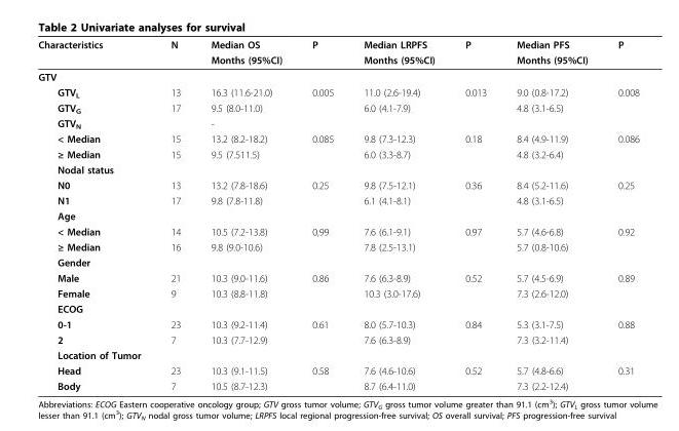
<table><thead><tr><td rowspan="2">Characteristics</td><td rowspan="2">N</td><td rowspan="2">Median OS Months (95%CI)</td><td rowspan="2">P</td><td rowspan="2">Median LRPFS Months (95%CI)</td><td rowspan="2">P</td><td rowspan="2">Median PFS Months (95%CI)</td><td rowspan="2">P</td></tr><tr></tr></thead><tbody><tr><td colspan="8">GTV</td></tr><tr><td>GTV<sub>L</sub></td><td>13</td><td>16.3 (11.6-21.0)</td><td>0.005</td><td>11.0 (2.6-19.4)</td><td>0.013</td><td>9.0 (0.8-17.2)</td><td>0.008</td></tr><tr><td>GTV<sub>G</sub></td><td>17</td><td>9.5 (8.0-11.0)</td><td></td><td>6.0 (4.1-7.9)</td><td></td><td>4.8 (3.1-6.5)</td><td></td></tr><tr><td>GTV<sub>N</sub></td><td></td><td>-</td><td></td><td></td><td></td><td></td><td></td></tr><tr><td>&lt; Median</td><td>15</td><td>13.2 (8.2-18.2)</td><td>0.085</td><td>9.8 (7.3-12.3)</td><td>0.18</td><td>8.4 (4.9-11.9)</td><td>0.086</td></tr><tr><td>≥ Median</td><td>15</td><td>9.5 (7.511.5)</td><td></td><td>6.0 (3.3-8.7)</td><td></td><td>4.8 (3.2-6.4)</td><td></td></tr><tr><td colspan="8">Nodal status</td></tr><tr><td>N0</td><td>13</td><td>13.2 (7.8-18.6)</td><td>0.25</td><td>9.8 (7.5-12.1)</td><td>0.36</td><td>8.4 (5.2-11.6)</td><td>0.25</td></tr><tr><td>N1</td><td>17</td><td>9.8 (7.8-11.8)</td><td></td><td>6.1 (4.1-8.1)</td><td></td><td>4.8 (3.1-6.5)</td><td></td></tr><tr><td colspan="8">Age</td></tr><tr><td>&lt; Median</td><td>14</td><td>10.5 (7.2-13.8)</td><td>0,99</td><td>7.6 (6.1-9.1)</td><td>0.97</td><td>5.7 (4.6-6.8)</td><td>0.92</td></tr><tr><td>≥ Median</td><td>16</td><td>9.8 (9.0-10.6)</td><td></td><td>7.8 (2.5-13.1)</td><td></td><td>5.7 (0.8-10.6)</td><td></td></tr><tr><td colspan="8">Gender</td></tr><tr><td>Male</td><td>21</td><td>10.3 (9.0-11.6)</td><td>0.86</td><td>7.6 (6.3-8.9)</td><td>0.52</td><td>5.7 (4.5-6.9)</td><td>0.89</td></tr><tr><td>Female</td><td>9</td><td>10.3 (8.8-11.8)</td><td></td><td>10.3 (3.0-17.6)</td><td></td><td>7.3 (2.6-12.0)</td><td></td></tr><tr><td colspan="8">ECOG</td></tr><tr><td>0-1</td><td>23</td><td>10.3 (9.2-11.4)</td><td>0.61</td><td>8.0 (5.7-10.3)</td><td>0.84</td><td>5.3 (3.1-7.5)</td><td>0.88</td></tr><tr><td>2</td><td>7</td><td>10.3 (7.7-12.9)</td><td></td><td>7.6 (6.3-8.9)</td><td></td><td>7.3 (3.2-11.4)</td><td></td></tr><tr><td colspan="8">Location of Tumor</td></tr><tr><td>Head</td><td>23</td><td>10.3 (9.1-11.5)</td><td>0.58</td><td>7.6 (4.6-10.6)</td><td>0.52</td><td>5.7 (4.8-6.6)</td><td>0.31</td></tr><tr><td>Body</td><td>7</td><td>10.5 (8.7-12.3)</td><td></td><td>8.7 (6.4-11.0)</td><td></td><td>7.3 (2.2-12.4)</td><td></td></tr></tbody></table>